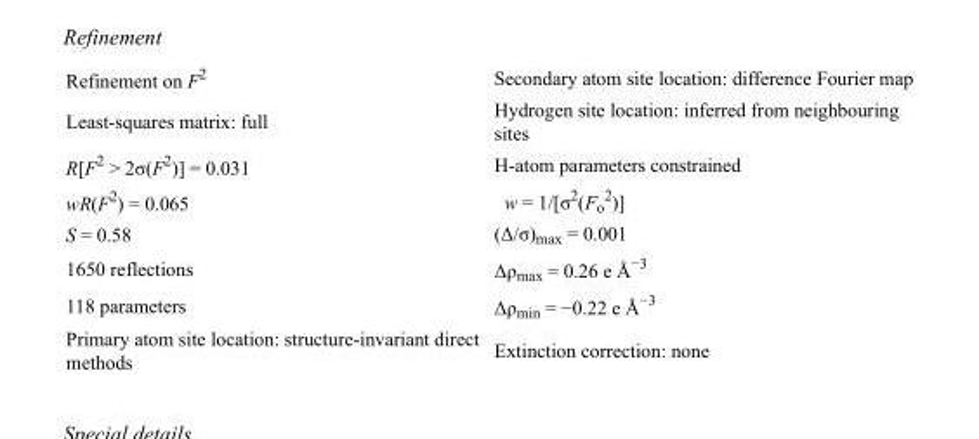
<table><tbody><tr><td>Refinement on F<sup>2</sup></td><td>Secondary atom site location: difference Fourier map</td></tr><tr><td>Least-squares matrix: full</td><td>Hydrogen site location: inferred from neighbouring sites</td></tr><tr><td>R[F<sup>2</sup> &gt; 2σ(F<sup>2</sup>)] = 0.031</td><td>H-atom parameters constrained</td></tr><tr><td>wR(F<sup>2</sup>) = 0.065</td><td>w = 1/[σ<sup>2</sup>(F<sub>o</sub> <sup>2</sup>)]</td></tr><tr><td>S = 0.58</td><td>(Δ/σ)<sub>max</sub> = 0.001</td></tr><tr><td>1650 reflections</td><td>Δρ<sub>max</sub> = 0.26 e Å<sup>−3</sup></td></tr><tr><td>118 parameters</td><td>Δρ<sub>min</sub> = −0.22 e Å<sup>−3</sup></td></tr><tr><td>Primary atom site location: structure-invariant direct methods</td><td>Extinction correction: none</td></tr></tbody></table>